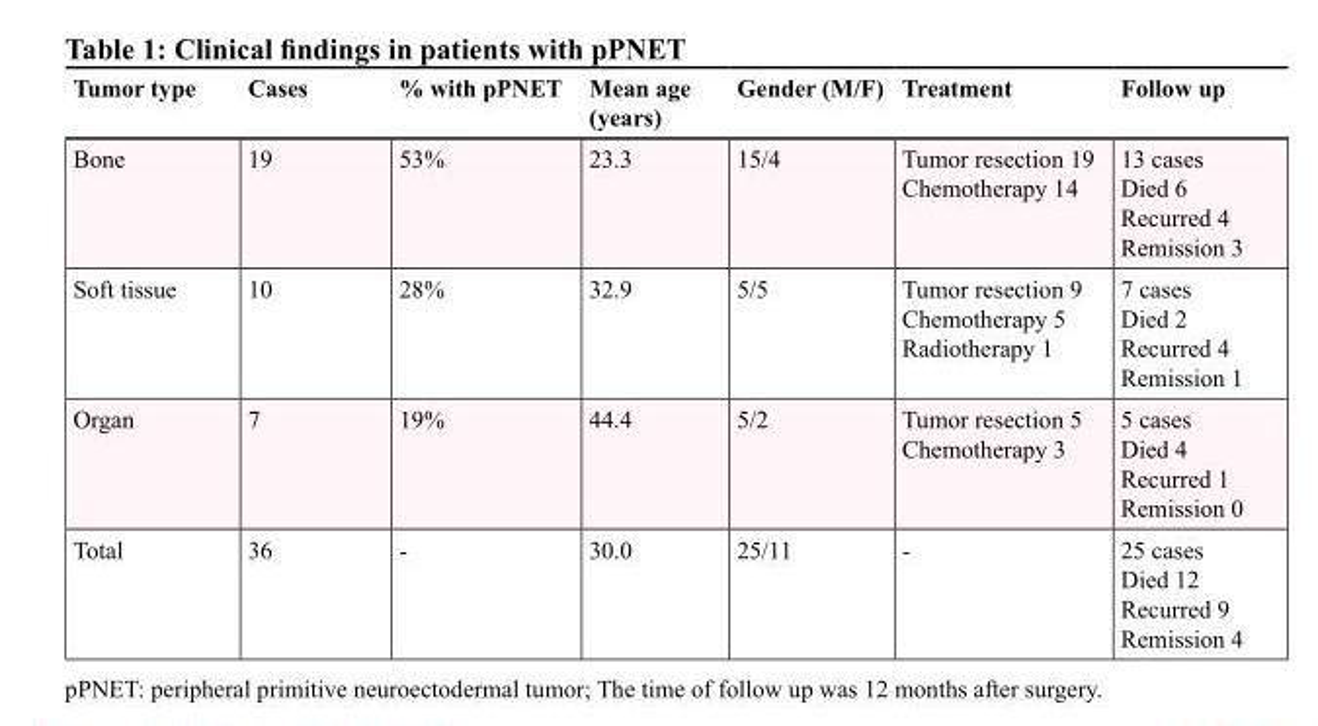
<table><thead><tr><td>Tumor type</td><td>Cases</td><td>% with pPNET</td><td>Mean age (years)</td><td>Gender (M/F)</td><td>Treatment</td><td>Follow up</td></tr></thead><tbody><tr><td>Bone</td><td>19</td><td>53%</td><td>23.3</td><td>15/4</td><td>Tumor resection 19 Chemotherapy 14</td><td>13 cases Died 6 Recurred 4 Remission 3</td></tr><tr><td>Soft tissue</td><td>10</td><td>28%</td><td>32.9</td><td>5/5</td><td>Tumor resection 9 Chemotherapy 5 Radiotherapy 1</td><td>7 cases Died 2 Recurred 4 Remission 1</td></tr><tr><td>Organ</td><td>7</td><td>19%</td><td>44.4</td><td>5/2</td><td>Tumor resection 5 Chemotherapy 3</td><td>5 cases Died 4 Recurred 1 Remission 0</td></tr><tr><td>Total</td><td>36</td><td>-</td><td>30.0</td><td>25/11</td><td>-</td><td>25 cases Died 12 Recurred 9 Remission 4</td></tr></tbody></table>